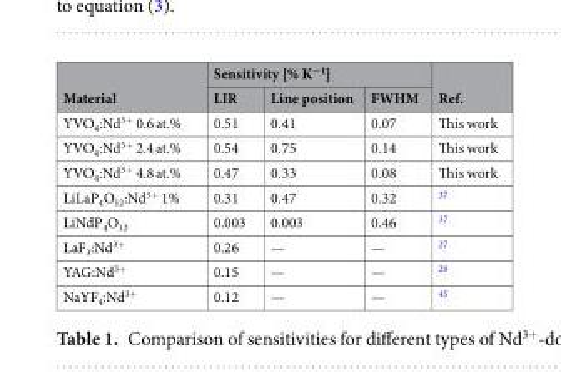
<table><thead><tr><td rowspan="2">Material</td><td colspan="3">Sensitivity [% K<sup>−1</sup>]</td><td rowspan="2">Ref.</td></tr><tr><td>LIR</td><td>Line position</td><td>FWHM</td></tr></thead><tbody><tr><td>YVO<sub>4</sub>:Nd<sup>3+</sup> 0.6 at.%</td><td>0.51</td><td>0.41</td><td>0.07</td><td>This work</td></tr><tr><td>YVO<sub>4</sub>:Nd<sup>3+</sup> 2.4 at.%</td><td>0.54</td><td>0.75</td><td>0.14</td><td>This work</td></tr><tr><td>YVO<sub>4</sub>:Nd<sup>3+</sup> 4.8 at.%</td><td>0.47</td><td>0.33</td><td>0.08</td><td>This work</td></tr><tr><td>LiLaP<sub>4</sub>O<sub>12</sub>:Nd<sup>3+</sup> 1%</td><td>0.31</td><td>0.47</td><td>0.32</td><td><sup>37</sup></td></tr><tr><td>LiNdP<sub>4</sub>O<sub>12</sub></td><td>0.003</td><td>0.003</td><td>0.46</td><td><sup>37</sup></td></tr><tr><td>LaF<sub>3</sub>:Nd<sup>3+</sup></td><td>0.26</td><td>—</td><td>—</td><td><sup>27</sup></td></tr><tr><td>YAG:Nd<sup>3+</sup></td><td>0.15</td><td>—</td><td>—</td><td><sup>29</sup></td></tr><tr><td>NaYF<sub>4</sub>:Nd<sup>3+</sup></td><td>0.12</td><td>—</td><td>—</td><td><sup>45</sup></td></tr></tbody></table>